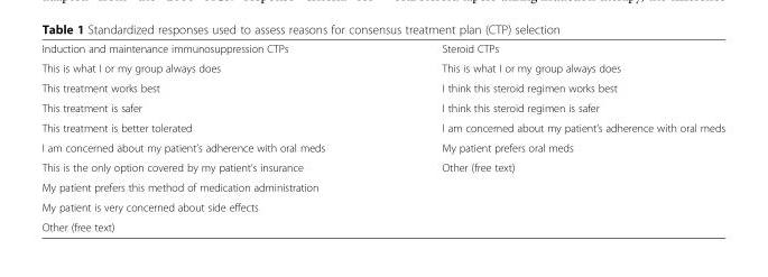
<table><tbody><tr><td>Induction and maintenance immunosuppression CTPs</td><td>Steroid CTPs</td></tr><tr><td>This is what I or my group always does</td><td>This is what I or my group always does</td></tr><tr><td>This treatment works best</td><td>I think this steroid regimen works best</td></tr><tr><td>This treatment is safer</td><td>I think this steroid regimen is safer</td></tr><tr><td>This treatment is better tolerated</td><td>I am concerned about my patient’s adherence with oral meds</td></tr><tr><td>I am concerned about my patient’s adherence with oral meds</td><td>My patient prefers oral meds</td></tr><tr><td>This is the only option covered by my patient’s insurance</td><td>Other (free text)</td></tr><tr><td colspan="2">My patient prefers this method of medication administration</td></tr><tr><td colspan="2">My patient is very concerned about side effects</td></tr><tr><td>Other (free text)</td><td></td></tr></tbody></table>